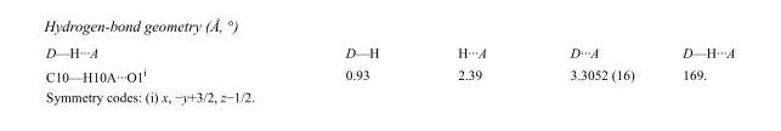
<table><tbody><tr><td>D—H···A</td><td>D—H</td><td>H···A</td><td>D···A</td><td>D—H···A</td></tr><tr><td>C10—H10A···O1<sup>i</sup></td><td>0.93</td><td>2.39</td><td>3.3052 (16)</td><td>169.</td></tr></tbody></table>